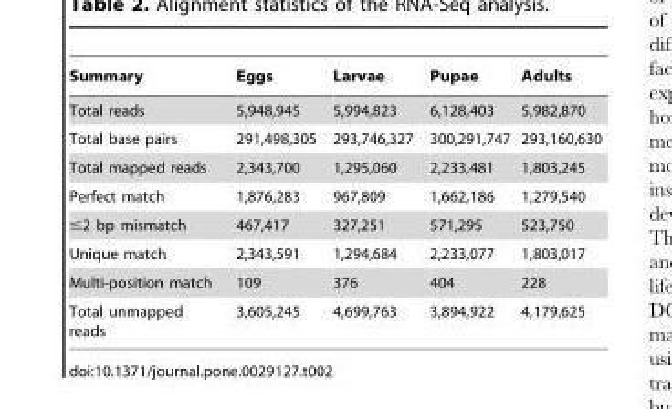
<table><thead><tr><td>Summary</td><td>Eggs</td><td>Larvae</td><td>Pupae</td><td>Adults</td></tr></thead><tbody><tr><td>Total reads</td><td>5,948,945</td><td>5,994,823</td><td>6,128,403</td><td>5,982,870</td></tr><tr><td>Total base pairs</td><td>291,498,305</td><td>293,746,327</td><td>300,291,747</td><td>293,160,630</td></tr><tr><td>Total mapped reads</td><td>2,343,700</td><td>1,295,060</td><td>2,233,481</td><td>1,803,245</td></tr><tr><td>Perfect match</td><td>1,876,283</td><td>967,809</td><td>1,662,186</td><td>1,279,540</td></tr><tr><td>≤2 bp mismatch</td><td>467,417</td><td>327,251</td><td>571,295</td><td>523,750</td></tr><tr><td>Unique match</td><td>2,343,591</td><td>1,294,684</td><td>2,233,077</td><td>1,803,017</td></tr><tr><td>Multi-position match</td><td>109</td><td>376</td><td>404</td><td>228</td></tr><tr><td>Total unmapped reads</td><td>3,605,245</td><td>4,699,763</td><td>3,894,922</td><td>4,179,625</td></tr></tbody></table>